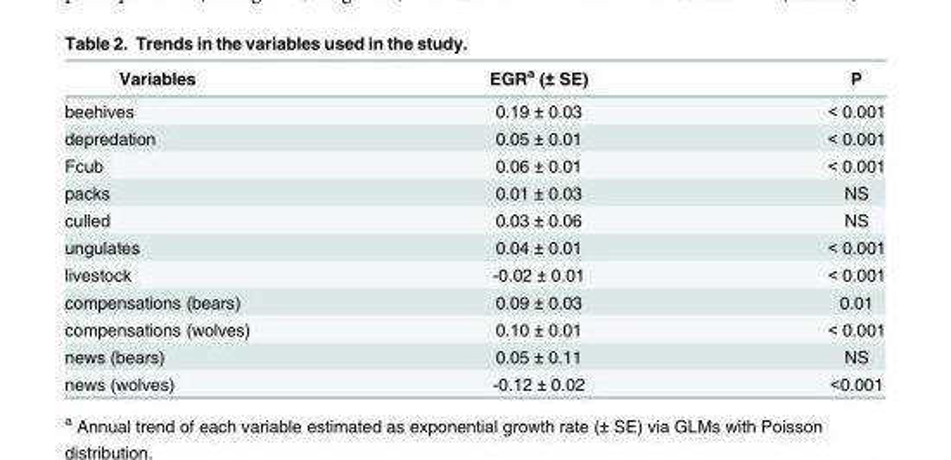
<table><thead><tr><td>Variables</td><td>EGR<sup>a</sup> (± SE)</td><td>P</td></tr></thead><tbody><tr><td>beehives</td><td>0.19 ± 0.03</td><td>&lt; 0.001</td></tr><tr><td>depredation</td><td>0.05 ± 0.01</td><td>&lt; 0.001</td></tr><tr><td>Fcub</td><td>0.06 ± 0.01</td><td>&lt; 0.001</td></tr><tr><td>packs</td><td>0.01 ± 0.03</td><td>NS</td></tr><tr><td>culled</td><td>0.03 ± 0.06</td><td>NS</td></tr><tr><td>ungulates</td><td>0.04 ± 0.01</td><td>&lt; 0.001</td></tr><tr><td>livestock</td><td>-0.02 ± 0.01</td><td>&lt; 0.001</td></tr><tr><td>compensations (bears)</td><td>0.09 ± 0.03</td><td>0.01</td></tr><tr><td>compensations (wolves)</td><td>0.10 ± 0.01</td><td>&lt; 0.001</td></tr><tr><td>news (bears)</td><td>0.05 ± 0.11</td><td>NS</td></tr><tr><td>news (wolves)</td><td>-0.12 ± 0.02</td><td>&lt;0.001</td></tr></tbody></table>